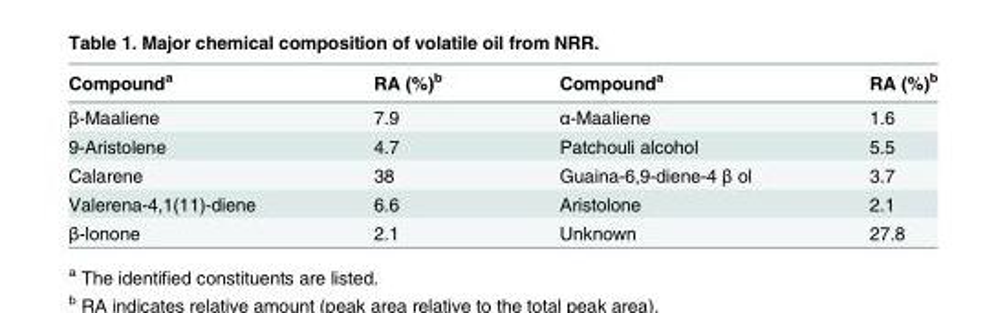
<table><thead><tr><td>Compound<sup>a</sup></td><td>RA (%)<sup>b</sup></td><td>Compound<sup>a</sup></td><td>RA (%)<sup>b</sup></td></tr></thead><tbody><tr><td>β-Maaliene</td><td>7.9</td><td>α-Maaliene</td><td>1.6</td></tr><tr><td>9-Aristolene</td><td>4.7</td><td>Patchouli alcohol</td><td>5.5</td></tr><tr><td>Calarene</td><td>38</td><td>Guaina-6,9-diene-4 β ol</td><td>3.7</td></tr><tr><td>Valerena-4,1(11)-diene</td><td>6.6</td><td>Aristolone</td><td>2.1</td></tr><tr><td>β-lonone</td><td>2.1</td><td>Unknown</td><td>27.8</td></tr></tbody></table>